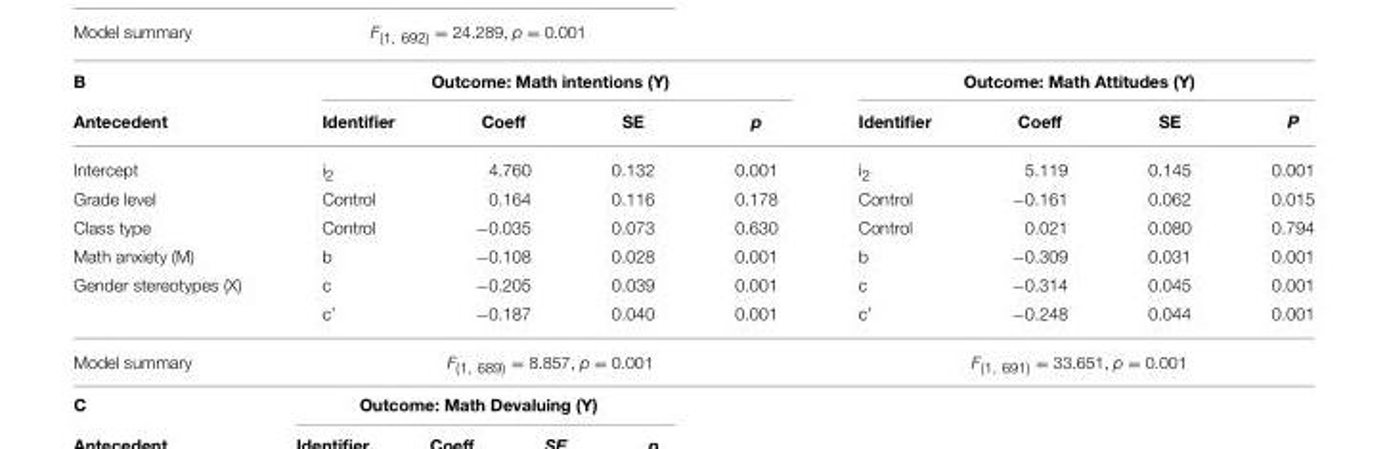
<table><thead><tr><td rowspan="2">B Antecedent</td><td colspan="4">Outcome: Math intentions (Y)</td><td colspan="4">Outcome: Math Attitudes (Y)</td></tr><tr><td>Identifier</td><td>Coeff</td><td>SE</td><td>p</td><td>Identifier</td><td>Coeff</td><td>SE</td><td>P</td></tr></thead><tbody><tr><td>Intercept</td><td>i<sub>2</sub></td><td>4.760</td><td>0.132</td><td>0.001</td><td>i<sub>2</sub></td><td>5.119</td><td>0.145</td><td>0.001</td></tr><tr><td>Grade level</td><td>Control</td><td>0.164</td><td>0.116</td><td>0.178</td><td>Control</td><td>−0.161</td><td>0.062</td><td>0.015</td></tr><tr><td>Class type</td><td>Control</td><td>−0.035</td><td>0.073</td><td>0.630</td><td>Control</td><td>0.021</td><td>0.080</td><td>0.794</td></tr><tr><td>Math anxiety (M)</td><td>b</td><td>−0.108</td><td>0.028</td><td>0.001</td><td>b</td><td>−0.309</td><td>0.031</td><td>0.001</td></tr><tr><td rowspan="2">Gender stereotypes (X)</td><td>c</td><td>−0.205</td><td>0.039</td><td>0.001</td><td>c</td><td>−0.314</td><td>0.045</td><td>0.001</td></tr><tr><td>c’</td><td>−0.187</td><td>0.040</td><td>0.001</td><td>c’</td><td>−0.248</td><td>0.044</td><td>0.001</td></tr><tr><td>Model summary</td><td colspan="4">F<sub>(1, 689)</sub> = 8.857, p = 0.001</td><td colspan="4">F<sub>(1, 691)</sub> = 33.651, p = 0.001</td></tr></tbody></table>